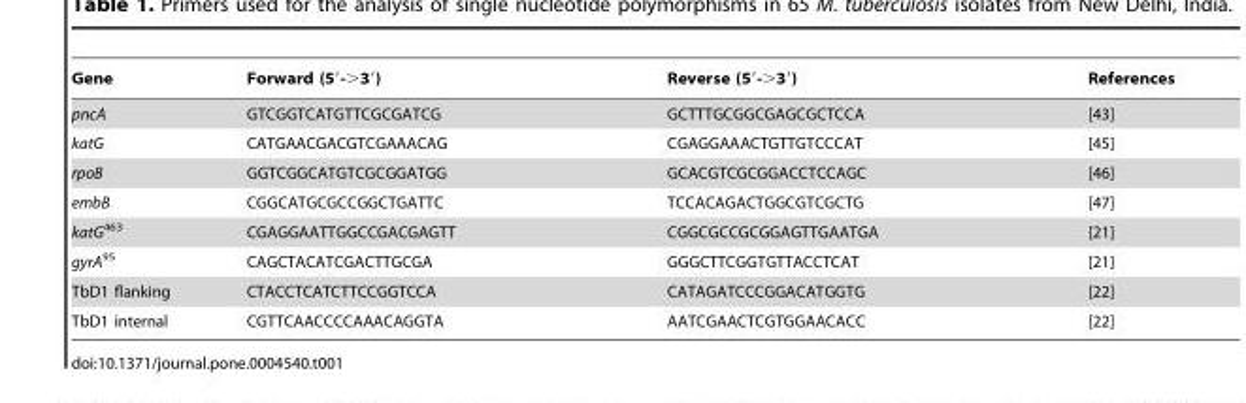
<table><thead><tr><td>Gene</td><td>Forward (5′-&gt;3′)</td><td>Reverse (5′-&gt;3′)</td><td>References</td></tr></thead><tbody><tr><td>pncA</td><td>GTCGGTCATGTTCGCGATCG</td><td>GCTTTGCGGCGAGCGCTCCA</td><td>[43]</td></tr><tr><td>katG</td><td>CATGAACGACGTCGAAACAG</td><td>CGAGGAAACTGTTGTCCCAT</td><td>[45]</td></tr><tr><td>rpoB</td><td>GGTCGGCATGTCGCGGATGG</td><td>GCACGTCGCGGACCTCCAGC</td><td>[46]</td></tr><tr><td>embB</td><td>CGGCATGCGCCGGCTGATTC</td><td>TCCACAGACTGGCGTCGCTG</td><td>[47]</td></tr><tr><td>katG<sup>463</sup></td><td>CGAGGAATTGGCCGACGAGTT</td><td>CGGCGCCGCGGAGTTGAATGA</td><td>[21]</td></tr><tr><td>gyrA<sup>95</sup></td><td>CAGCTACATCGACTTGCGA</td><td>GGGCTTCGGTGTTACCTCAT</td><td>[21]</td></tr><tr><td>TbD1 flanking</td><td>CTACCTCATCTTCCGGTCCA</td><td>CATAGATCCCGGACATGGTG</td><td>[22]</td></tr><tr><td>TbD1 internal</td><td>CGTTCAACCCCAAACAGGTA</td><td>AATCGAACTCGTGGAACACC</td><td>[22]</td></tr></tbody></table>